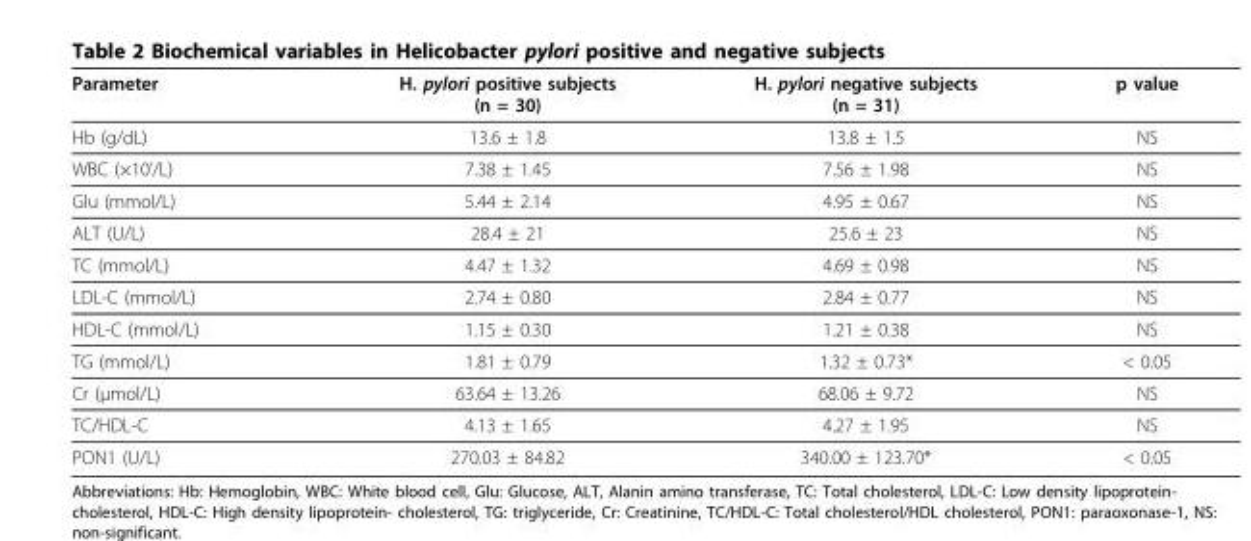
<table><thead><tr><td>Parameter</td><td>H. pylori positive subjects (n = 30)</td><td>H. pylori negative subjects (n = 31)</td><td>p value</td></tr></thead><tbody><tr><td>Hb (g/dL)</td><td>13.6 ± 1.8</td><td>13.8 ± 1.5</td><td>NS</td></tr><tr><td>WBC (×10’/L)</td><td>7.38 ± 1.45</td><td>7.56 ± 1.98</td><td>NS</td></tr><tr><td>Glu (mmol/L)</td><td>5.44 ± 2.14</td><td>4.95 ± 0.67</td><td>NS</td></tr><tr><td>ALT (U/L)</td><td>28.4 ± 21</td><td>25.6 ± 23</td><td>NS</td></tr><tr><td>TC (mmol/L)</td><td>4.47 ± 1.32</td><td>4.69 ± 0.98</td><td>NS</td></tr><tr><td>LDL-C (mmol/L)</td><td>2.74 ± 0.80</td><td>2.84 ± 0.77</td><td>NS</td></tr><tr><td>HDL-C (mmol/L)</td><td>1.15 ± 0.30</td><td>1.21 ± 0.38</td><td>NS</td></tr><tr><td>TG (mmol/L)</td><td>1.81 ± 0.79</td><td>1.32 ± 0.73*</td><td>&lt; 0.05</td></tr><tr><td>Cr (μmol/L)</td><td>63.64 ± 13.26</td><td>68.06 ± 9.72</td><td>NS</td></tr><tr><td>TC/HDL-C</td><td>4.13 ± 1.65</td><td>4.27 ± 1.95</td><td>NS</td></tr><tr><td>PON1 (U/L)</td><td>270.03 ± 84.82</td><td>340.00 ± 123.70*</td><td>&lt; 0.05</td></tr></tbody></table>